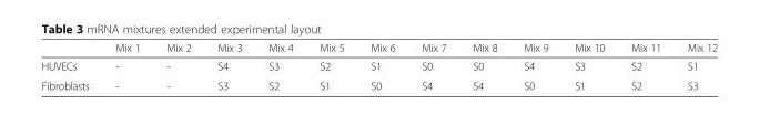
<table><thead><tr><td></td><td>Mix 1</td><td>Mix 2</td><td>Mix 3</td><td>Mix 4</td><td>Mix 5</td><td>Mix 6</td><td>Mix 7</td><td>Mix 8</td><td>Mix 9</td><td>Mix 10</td><td>Mix 11</td><td>Mix 12</td></tr></thead><tbody><tr><td>HUVECs</td><td>-</td><td>-</td><td>S4</td><td>S3</td><td>S2</td><td>S1</td><td>S0</td><td>S0</td><td>S4</td><td>S3</td><td>S2</td><td>S1</td></tr><tr><td>Fibroblasts</td><td>-</td><td>-</td><td>S3</td><td>S2</td><td>S1</td><td>S0</td><td>S4</td><td>S4</td><td>S0</td><td>S1</td><td>S2</td><td>S3</td></tr></tbody></table>